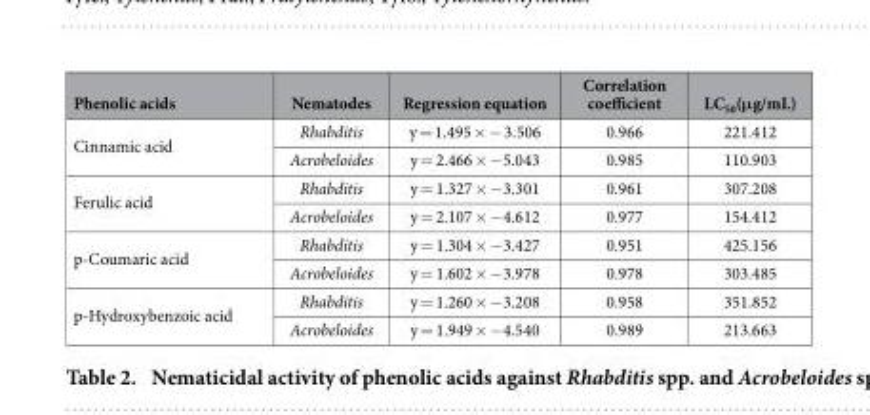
<table><thead><tr><td>Phenolic acids</td><td>Nematodes</td><td>Regression equation</td><td>Correlation coefficient</td><td>LC<sub>50</sub>(μg/mL)</td></tr></thead><tbody><tr><td rowspan="2">Cinnamic acid</td><td>Rhabditis</td><td>y = 1.495 × − 3.506</td><td>0.966</td><td>221.412</td></tr><tr><td>Acrobeloides</td><td>y = 2.466 × − 5.043</td><td>0.985</td><td>110.903</td></tr><tr><td rowspan="2">Ferulic acid</td><td>Rhabditis</td><td>y = 1.327 × − 3.301</td><td>0.961</td><td>307.208</td></tr><tr><td>Acrobeloides</td><td>y = 2.107 × − 4.612</td><td>0.977</td><td>154.412</td></tr><tr><td rowspan="2">p-Coumaric acid</td><td>Rhabditis</td><td>y = 1.304 × − 3.427</td><td>0.951</td><td>425.156</td></tr><tr><td>Acrobeloides</td><td>y = 1.602 × − 3.978</td><td>0.978</td><td>303.485</td></tr><tr><td rowspan="2">p-Hydroxybenzoic acid</td><td>Rhabditis</td><td>y = 1.260 × − 3.208</td><td>0.958</td><td>351.852</td></tr><tr><td>Acrobeloides</td><td>y = 1.949 × − 4.540</td><td>0.989</td><td>213.663</td></tr></tbody></table>